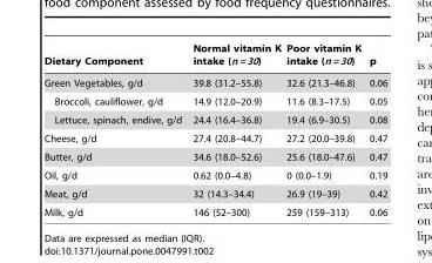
<table><thead><tr><td>Dietary Component</td><td>Normal vitamin K intake (n = 30)</td><td>Poor vitamin K intake (n = 30)</td><td>p</td></tr></thead><tbody><tr><td>Green Vegetables, g/d</td><td>39.8 (31.2–55.8)</td><td>32.6 (21.3–46.8)</td><td>0.06</td></tr><tr><td>Broccoli, cauliflower, g/d</td><td>14.9 (12.0–20.9)</td><td>11.6 (8.3–17.5)</td><td>0.05</td></tr><tr><td>Lettuce, spinach, endive, g/d</td><td>24.4 (16.4–36.8)</td><td>19.4 (6.9–30.5)</td><td>0.08</td></tr><tr><td>Cheese, g/d</td><td>27.4 (20.8–44.7)</td><td>27.2 (20.0–39.8)</td><td>0.47</td></tr><tr><td>Butter, g/d</td><td>34.6 (18.0–52.6)</td><td>25.6 (18.0–47.6)</td><td>0.47</td></tr><tr><td>Oil, g/d</td><td>0.62 (0.0–4.8)</td><td>0 (0.0–1.9)</td><td>0.19</td></tr><tr><td>Meat, g/d</td><td>32 (14.3–34.4)</td><td>26.9 (19–39)</td><td>0.42</td></tr><tr><td>Milk, g/d</td><td>146 (52–300)</td><td>259 (159–313)</td><td>0.06</td></tr></tbody></table>